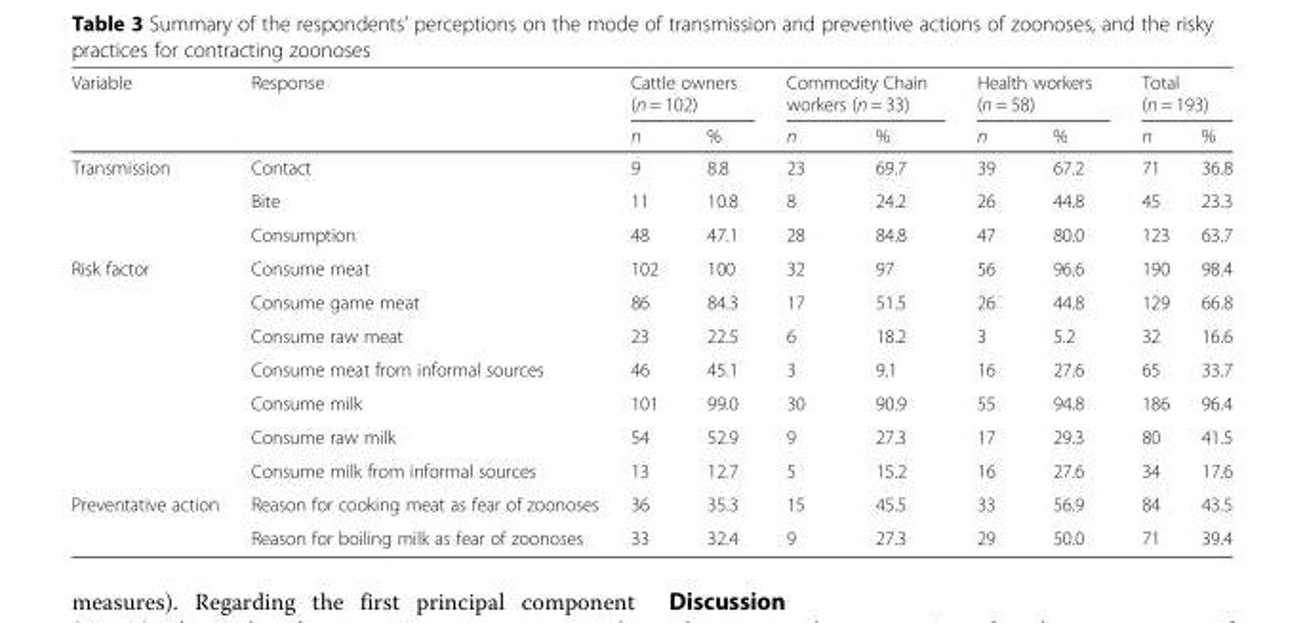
<table><thead><tr><td rowspan="2">Variable</td><td rowspan="2">Response</td><td colspan="2">Cattle owners (n = 102)</td><td colspan="2">Commodity Chain workers (n = 33)</td><td colspan="2">Health workers (n = 58)</td><td colspan="2">Total (n = 193)</td></tr><tr><td>n</td><td>%</td><td>n</td><td>%</td><td>n</td><td>%</td><td>n</td><td>%</td></tr></thead><tbody><tr><td rowspan="3">Transmission</td><td>Contact</td><td>9</td><td>8.8</td><td>23</td><td>69.7</td><td>39</td><td>67.2</td><td>71</td><td>36.8</td></tr><tr><td>Bite</td><td>11</td><td>10.8</td><td>8</td><td>24.2</td><td>26</td><td>44.8</td><td>45</td><td>23.3</td></tr><tr><td>Consumption</td><td>48</td><td>47.1</td><td>28</td><td>84.8</td><td>47</td><td>80.0</td><td>123</td><td>63.7</td></tr><tr><td rowspan="7">Risk factor</td><td>Consume meat</td><td>102</td><td>100</td><td>32</td><td>97</td><td>56</td><td>96.6</td><td>190</td><td>98.4</td></tr><tr><td>Consume game meat</td><td>86</td><td>84.3</td><td>17</td><td>51.5</td><td>26</td><td>44.8</td><td>129</td><td>66.8</td></tr><tr><td>Consume raw meat</td><td>23</td><td>22.5</td><td>6</td><td>18.2</td><td>3</td><td>5.2</td><td>32</td><td>16.6</td></tr><tr><td>Consume meat from informal sources</td><td>46</td><td>45.1</td><td>3</td><td>9.1</td><td>16</td><td>27.6</td><td>65</td><td>33.7</td></tr><tr><td>Consume milk</td><td>101</td><td>99.0</td><td>30</td><td>90.9</td><td>55</td><td>94.8</td><td>186</td><td>96.4</td></tr><tr><td>Consume raw milk</td><td>54</td><td>52.9</td><td>9</td><td>27.3</td><td>17</td><td>29.3</td><td>80</td><td>41.5</td></tr><tr><td>Consume milk from informal sources</td><td>13</td><td>12.7</td><td>5</td><td>15.2</td><td>16</td><td>27.6</td><td>34</td><td>17.6</td></tr><tr><td rowspan="2">Preventative action</td><td>Reason for cooking meat as fear of zoonoses</td><td>36</td><td>35.3</td><td>15</td><td>45.5</td><td>33</td><td>56.9</td><td>84</td><td>43.5</td></tr><tr><td>Reason for boiling milk as fear of zoonoses</td><td>33</td><td>32.4</td><td>9</td><td>27.3</td><td>29</td><td>50.0</td><td>71</td><td>39.4</td></tr></tbody></table>